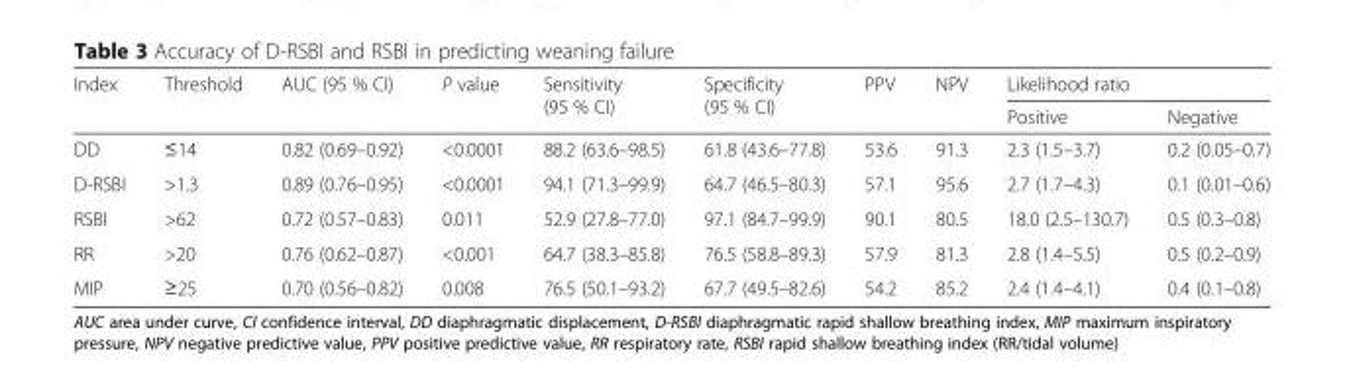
<table><thead><tr><td rowspan="2">Index</td><td rowspan="2">Threshold</td><td rowspan="2">AUC (95 % CI)</td><td rowspan="2">P value</td><td rowspan="2">Sensitivity (95 % CI)</td><td rowspan="2">Specificity (95 % CI)</td><td rowspan="2">PPV</td><td rowspan="2">NPV</td><td colspan="2">Likelihood ratio</td></tr><tr><td>Positive</td><td>Negative</td></tr></thead><tbody><tr><td>DD</td><td>≤14</td><td>0.82 (0.69–0.92)</td><td>&lt;0.0001</td><td>88.2 (63.6–98.5)</td><td>61.8 (43.6–77.8)</td><td>53.6</td><td>91.3</td><td>2.3 (1.5–3.7)</td><td>0.2 (0.05–0.7)</td></tr><tr><td>D-RSBI</td><td>&gt;1.3</td><td>0.89 (0.76–0.95)</td><td>&lt;0.0001</td><td>94.1 (71.3–99.9)</td><td>64.7 (46.5–80.3)</td><td>57.1</td><td>95.6</td><td>2.7 (1.7–4.3)</td><td>0.1 (0.01–0.6)</td></tr><tr><td>RSBI</td><td>&gt;62</td><td>0.72 (0.57–0.83)</td><td>0.011</td><td>52.9 (27.8–77.0)</td><td>97.1 (84.7–99.9)</td><td>90.1</td><td>80.5</td><td>18.0 (2.5–130.7)</td><td>0.5 (0.3–0.8)</td></tr><tr><td>RR</td><td>&gt;20</td><td>0.76 (0.62–0.87)</td><td>&lt;0.001</td><td>64.7 (38.3–85.8)</td><td>76.5 (58.8–89.3)</td><td>57.9</td><td>81.3</td><td>2.8 (1.4–5.5)</td><td>0.5 (0.2–0.9)</td></tr><tr><td>MIP</td><td>≥25</td><td>0.70 (0.56–0.82)</td><td>0.008</td><td>76.5 (50.1–93.2)</td><td>67.7 (49.5–82.6)</td><td>54.2</td><td>85.2</td><td>2.4 (1.4–4.1)</td><td>0.4 (0.1–0.8)</td></tr></tbody></table>